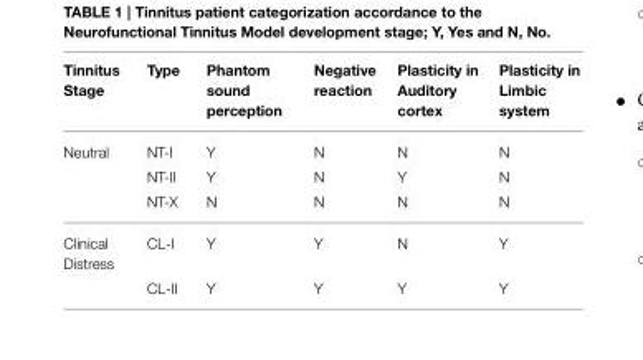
<table><thead><tr><td>Tinnitus Stage</td><td>Type</td><td>Phantom sound perception</td><td>Negative reaction</td><td>Plasticity in Auditory cortex</td><td>Plasticity in Limbic system</td></tr></thead><tbody><tr><td rowspan="3">Neutral</td><td>NT-I</td><td>Y</td><td>N</td><td>N</td><td>N</td></tr><tr><td>NT-II</td><td>Y</td><td>N</td><td>Y</td><td>N</td></tr><tr><td>NT-X</td><td>N</td><td>N</td><td>N</td><td>N</td></tr><tr><td rowspan="2">Clinical Distress</td><td>CL-I</td><td>Y</td><td>Y</td><td>N</td><td>Y</td></tr><tr><td>CL-II</td><td>Y</td><td>Y</td><td>Y</td><td>Y</td></tr></tbody></table>